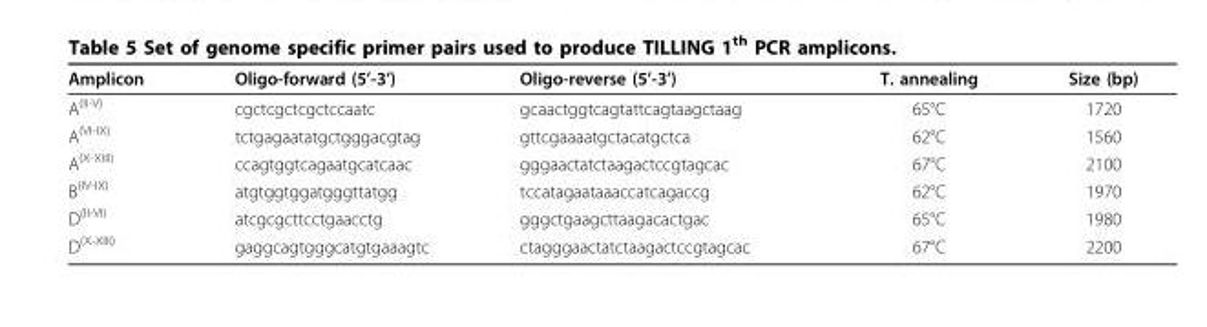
<table><thead><tr><td>Amplicon</td><td>Oligo-forward (5’-3’)</td><td>Oligo-reverse (5’-3’)</td><td>T. annealing</td><td>Size (bp)</td></tr></thead><tbody><tr><td>A<sup>(II-V)</sup></td><td>cgctcgctcgctccaatc</td><td>gcaactggtcagtattcagtaagctaag</td><td>65°C</td><td>1720</td></tr><tr><td>A<sup>(VI-IX)</sup></td><td>tctgagaatatgctgggacgtag</td><td>gttcgaaaatgctacatgctca</td><td>62°C</td><td>1560</td></tr><tr><td>A<sup>(X-XIII)</sup></td><td>ccagtggtcagaatgcatcaac</td><td>gggaactatctaagactccgtagcac</td><td>67°C</td><td>2100</td></tr><tr><td>B<sup>(IV-IX)</sup></td><td>atgtggtggatgggttatgg</td><td>tccatagaataaaccatcagaccg</td><td>62°C</td><td>1970</td></tr><tr><td>D<sup>(II-VI)</sup></td><td>atcgcgcttcctgaacctg</td><td>gggctgaagcttaagacactgac</td><td>65°C</td><td>1980</td></tr><tr><td>D<sup>(X-XIII)</sup></td><td>gaggcagtgggcatgtgaaagtc</td><td>ctagggaactatctaagactccgtagcac</td><td>67°C</td><td>2200</td></tr></tbody></table>